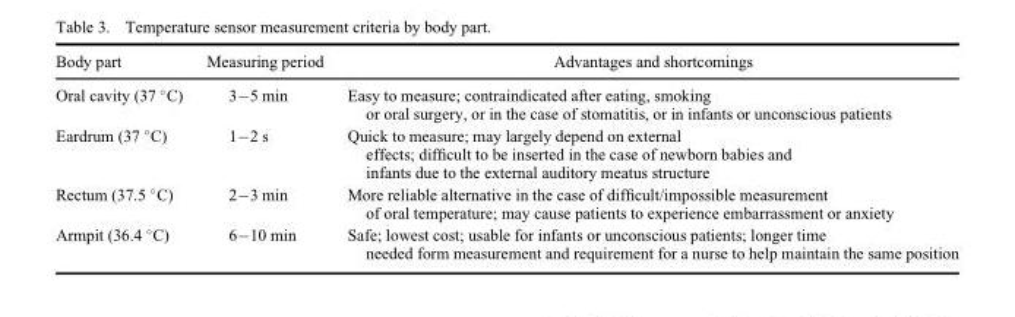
<table><thead><tr><td>Body part</td><td>Measuring period</td><td>Advantages and shortcomings</td></tr></thead><tbody><tr><td>Oral cavity (37 °C)</td><td>3–5 min</td><td>Easy to measure; contraindicated after eating, smoking or oral surgery, or in the case of stomatitis, or in infants or unconscious patients</td></tr><tr><td>Eardrum (37 °C)</td><td>1–2 s</td><td>Quick to measure; may largely depend on external effects; difficult to be inserted in the case of newborn babies and infants due to the external auditory meatus structure</td></tr><tr><td>Rectum (37.5 °C)</td><td>2–3 min</td><td>More reliable alternative in the case of difficult/impossible measurement of oral temperature; may cause patients to experience embarrassment or anxiety</td></tr><tr><td>Armpit (36.4 °C)</td><td>6–10 min</td><td>Safe; lowest cost; usable for infants or unconscious patients; longer time needed form measurement and requirement for a nurse to help maintain the same position</td></tr></tbody></table>